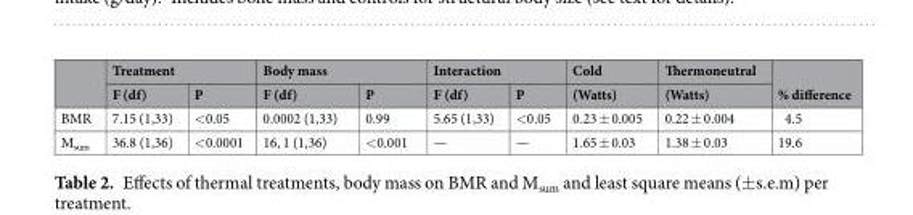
<table><thead><tr><td rowspan="2"></td><td colspan="2">Treatment</td><td colspan="2">Body mass</td><td colspan="2">Interaction</td><td rowspan="2">Cold (Watts)</td><td rowspan="2">Thermoneutral (Watts)</td><td rowspan="2">% difference</td></tr><tr><td>F (df)</td><td>P</td><td>F (df)</td><td>P</td><td>F (df)</td><td>P</td></tr></thead><tbody><tr><td>BMR</td><td>7.15 (1,33)</td><td>&lt;0.05</td><td>0.0002 (1,33)</td><td>0.99</td><td>5.65 (1,33)</td><td>&lt;0.05</td><td>0.23 ± 0.005</td><td>0.22 ± 0.004</td><td>4.5</td></tr><tr><td>M<sub>sum</sub></td><td>36.8 (1,36)</td><td>&lt;0.0001</td><td>16, 1 (1,36)</td><td>&lt;0.001</td><td>—</td><td>—</td><td>1.65 ± 0.03</td><td>1.38 ± 0.03</td><td>19.6</td></tr></tbody></table>